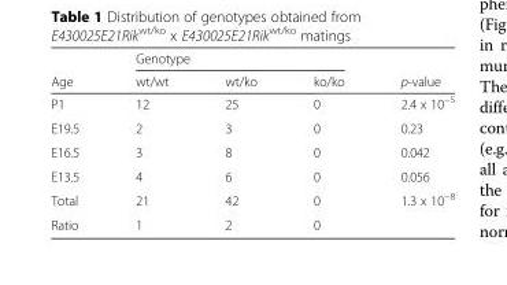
<table><thead><tr><td rowspan="2">Age</td><td colspan="3">Genotype</td><td rowspan="2">p-value</td></tr><tr><td>wt/wt</td><td>wt/ko</td><td>ko/ko</td></tr></thead><tbody><tr><td>P1</td><td>12</td><td>25</td><td>0</td><td>2.4 x 10<sup>−5</sup></td></tr><tr><td>E19.5</td><td>2</td><td>3</td><td>0</td><td>0.23</td></tr><tr><td>E16.5</td><td>3</td><td>8</td><td>0</td><td>0.042</td></tr><tr><td>E13.5</td><td>4</td><td>6</td><td>0</td><td>0.056</td></tr><tr><td>Total</td><td>21</td><td>42</td><td>0</td><td>1.3 x 10<sup>−8</sup></td></tr><tr><td>Ratio</td><td>1</td><td>2</td><td>0</td><td></td></tr></tbody></table>